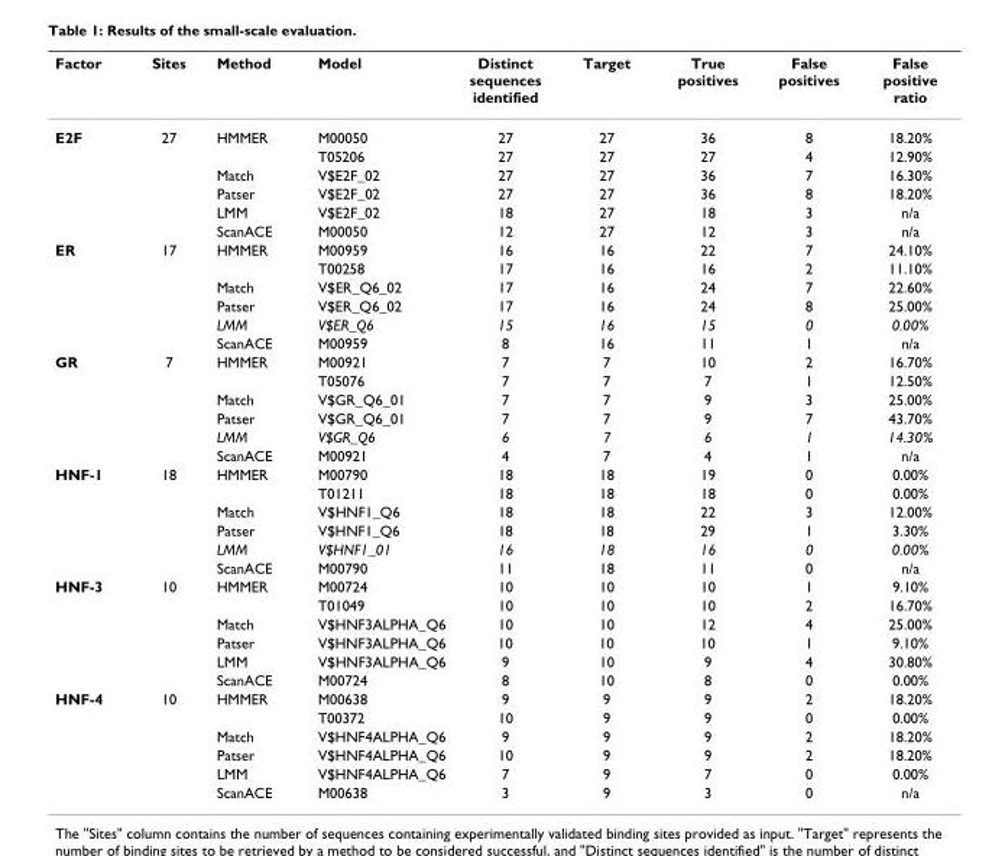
<table><thead><tr><td>Factor</td><td>Sites</td><td>Method</td><td>Model</td><td>Distinct sequences identified</td><td>Target</td><td>True positives</td><td>False positives</td><td>False positive ratio</td></tr></thead><tbody><tr><td rowspan="6">E2F</td><td>27</td><td>HMMER</td><td>M00050</td><td>27</td><td>27</td><td>36</td><td>8</td><td>18.20%</td></tr><tr><td></td><td></td><td>T05206</td><td>27</td><td>27</td><td>27</td><td>4</td><td>12.90%</td></tr><tr><td></td><td>Match</td><td>V$E2F_02</td><td>27</td><td>27</td><td>36</td><td>7</td><td>16.30%</td></tr><tr><td></td><td>Patser</td><td>V$E2F_02</td><td>27</td><td>27</td><td>36</td><td>8</td><td>18.20%</td></tr><tr><td></td><td>LMM</td><td>V$E2F_02</td><td>18</td><td>27</td><td>18</td><td>3</td><td>n/a</td></tr><tr><td></td><td>ScanACE</td><td>M00050</td><td>12</td><td>27</td><td>12</td><td>3</td><td>n/a</td></tr><tr><td rowspan="6">ER</td><td>17</td><td>HMMER</td><td>M00959</td><td>16</td><td>16</td><td>22</td><td>7</td><td>24.10%</td></tr><tr><td></td><td></td><td>T00258</td><td>17</td><td>16</td><td>16</td><td>2</td><td>11.10%</td></tr><tr><td></td><td>Match</td><td>V$ER_Q6_02</td><td>17</td><td>16</td><td>24</td><td>7</td><td>22.60%</td></tr><tr><td></td><td>Patser</td><td>V$ER_Q6_02</td><td>17</td><td>16</td><td>24</td><td>8</td><td>25.00%</td></tr><tr><td></td><td>LMM</td><td>V$ER_Q6</td><td>15</td><td>16</td><td>15</td><td>0</td><td>0.00%</td></tr><tr><td></td><td>ScanACE</td><td>M00959</td><td>8</td><td>16</td><td>11</td><td>1</td><td>n/a</td></tr><tr><td rowspan="6">GR</td><td>7</td><td>HMMER</td><td>M00921</td><td>7</td><td>7</td><td>10</td><td>2</td><td>16.70%</td></tr><tr><td></td><td></td><td>T05076</td><td>7</td><td>7</td><td>7</td><td>1</td><td>12.50%</td></tr><tr><td></td><td>Match</td><td>V$GR_Q6_01</td><td>7</td><td>7</td><td>9</td><td>3</td><td>25.00%</td></tr><tr><td></td><td>Patser</td><td>V$GR_Q6_01</td><td>7</td><td>7</td><td>9</td><td>7</td><td>43.70%</td></tr><tr><td></td><td>LMM</td><td>V$GR_Q6</td><td>6</td><td>7</td><td>6</td><td>1</td><td>14.30%</td></tr><tr><td></td><td>ScanACE</td><td>M00921</td><td>4</td><td>7</td><td>4</td><td>1</td><td>n/a</td></tr><tr><td rowspan="6">HNF-1</td><td>18</td><td>HMMER</td><td>M00790</td><td>18</td><td>18</td><td>19</td><td>0</td><td>0.00%</td></tr><tr><td></td><td></td><td>T01211</td><td>18</td><td>18</td><td>18</td><td>0</td><td>0.00%</td></tr><tr><td></td><td>Match</td><td>V$HNF1_Q6</td><td>18</td><td>18</td><td>22</td><td>3</td><td>12.00%</td></tr><tr><td></td><td>Patser</td><td>V$HNF1_Q6</td><td>18</td><td>18</td><td>29</td><td>1</td><td>3.30%</td></tr><tr><td></td><td>LMM</td><td>V$HNF1_01</td><td>16</td><td>18</td><td>16</td><td>0</td><td>0.00%</td></tr><tr><td></td><td>ScanACE</td><td>M00790</td><td>11</td><td>18</td><td>11</td><td>0</td><td>n/a</td></tr><tr><td rowspan="6">HNF-3</td><td>10</td><td>HMMER</td><td>M00724</td><td>10</td><td>10</td><td>10</td><td>1</td><td>9.10%</td></tr><tr><td></td><td></td><td>T01049</td><td>10</td><td>10</td><td>10</td><td>2</td><td>16.70%</td></tr><tr><td></td><td>Match</td><td>V$HNF3ALPHA_Q6</td><td>10</td><td>10</td><td>12</td><td>4</td><td>25.00%</td></tr><tr><td></td><td>Patser</td><td>V$HNF3ALPHA_Q6</td><td>10</td><td>10</td><td>10</td><td>1</td><td>9.10%</td></tr><tr><td></td><td>LMM</td><td>V$HNF3ALPHA_Q6</td><td>9</td><td>10</td><td>9</td><td>4</td><td>30.80%</td></tr><tr><td></td><td>ScanACE</td><td>M00724</td><td>8</td><td>10</td><td>8</td><td>0</td><td>0.00%</td></tr><tr><td rowspan="6">HNF-4</td><td>10</td><td>HMMER</td><td>M00638</td><td>9</td><td>9</td><td>9</td><td>2</td><td>18.20%</td></tr><tr><td></td><td></td><td>T00372</td><td>10</td><td>9</td><td>9</td><td>0</td><td>0.00%</td></tr><tr><td></td><td>Match</td><td>V$HNF4ALPHA_Q6</td><td>9</td><td>9</td><td>9</td><td>2</td><td>18.20%</td></tr><tr><td></td><td>Patser</td><td>V$HNF4ALPHA_Q6</td><td>10</td><td>9</td><td>9</td><td>2</td><td>18.20%</td></tr><tr><td></td><td>LMM</td><td>V$HNF4ALPHA_Q6</td><td>7</td><td>9</td><td>7</td><td>0</td><td>0.00%</td></tr><tr><td></td><td>ScanACE</td><td>M00638</td><td>3</td><td>9</td><td>3</td><td>0</td><td>n/a</td></tr></tbody></table>